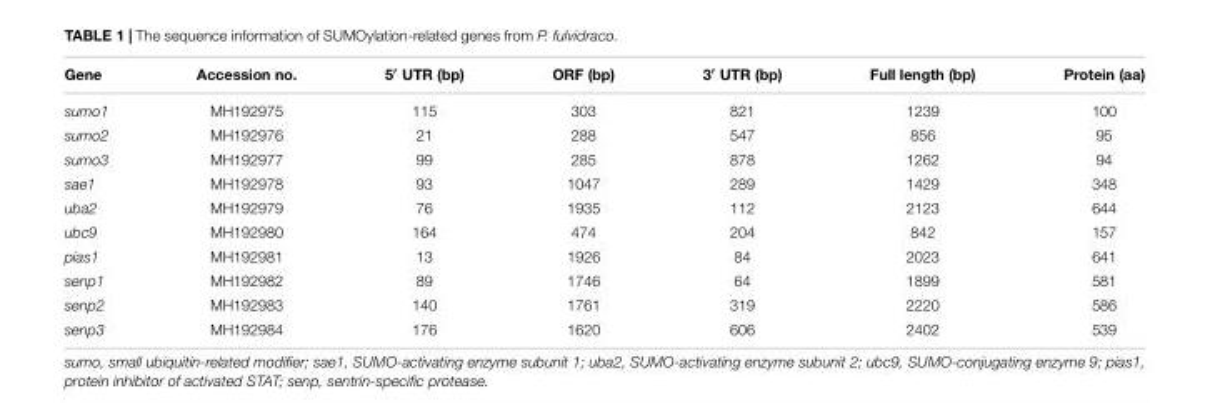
<table><thead><tr><td>Gene</td><td>Accession no.</td><td>5′ UTR (bp)</td><td>ORF (bp)</td><td>3′ UTR (bp)</td><td>Full length (bp)</td><td>Protein (aa)</td></tr></thead><tbody><tr><td>sumo1</td><td>MH192975</td><td>115</td><td>303</td><td>821</td><td>1239</td><td>100</td></tr><tr><td>sumo2</td><td>MH192976</td><td>21</td><td>288</td><td>547</td><td>856</td><td>95</td></tr><tr><td>sumo3</td><td>MH192977</td><td>99</td><td>285</td><td>878</td><td>1262</td><td>94</td></tr><tr><td>sae1</td><td>MH192978</td><td>93</td><td>1047</td><td>289</td><td>1429</td><td>348</td></tr><tr><td>uba2</td><td>MH192979</td><td>76</td><td>1935</td><td>112</td><td>2123</td><td>644</td></tr><tr><td>ubc9</td><td>MH192980</td><td>164</td><td>474</td><td>204</td><td>842</td><td>157</td></tr><tr><td>pias1</td><td>MH192981</td><td>13</td><td>1926</td><td>84</td><td>2023</td><td>641</td></tr><tr><td>senp1</td><td>MH192982</td><td>89</td><td>1746</td><td>64</td><td>1899</td><td>581</td></tr><tr><td>senp2</td><td>MH192983</td><td>140</td><td>1761</td><td>319</td><td>2220</td><td>586</td></tr><tr><td>senp3</td><td>MH192984</td><td>176</td><td>1620</td><td>606</td><td>2402</td><td>539</td></tr></tbody></table>